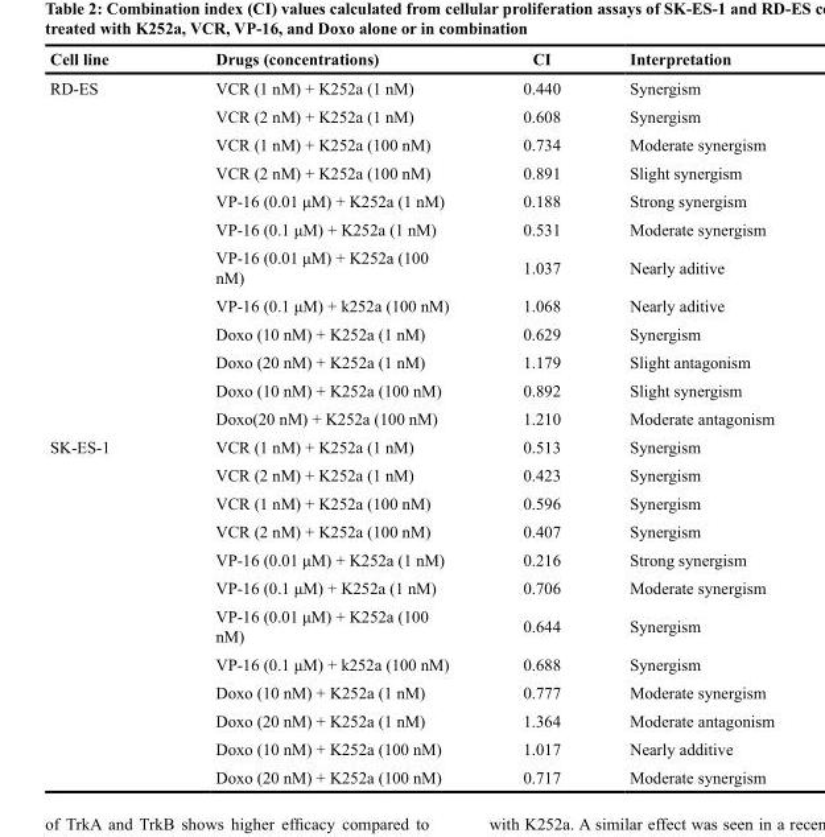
<table><thead><tr><td>Cell line</td><td>Drugs (concentrations)</td><td>CI</td><td>Interpretation</td></tr></thead><tbody><tr><td rowspan="12">RD-ES</td><td>VCR (1 nM) + K252a (1 nM)</td><td>0.440</td><td>Synergism</td></tr><tr><td>VCR (2 nM) + K252a (1 nM)</td><td>0.608</td><td>Synergism</td></tr><tr><td>VCR (1 nM) + K252a (100 nM)</td><td>0.734</td><td>Moderate synergism</td></tr><tr><td>VCR (2 nM) + K252a (100 nM)</td><td>0.891</td><td>Slight synergism</td></tr><tr><td>VP-16 (0.01 μM) + K252a (1 nM)</td><td>0.188</td><td>Strong synergism</td></tr><tr><td>VP-16 (0.1 μM) + K252a (1 nM)</td><td>0.531</td><td>Moderate synergism</td></tr><tr><td>VP-16 (0.01 μM) + K252a (100 nM)</td><td>1.037</td><td>Nearly aditive</td></tr><tr><td>VP-16 (0.1 μM) + k252a (100 nM)</td><td>1.068</td><td>Nearly aditive</td></tr><tr><td>Doxo (10 nM) + K252a (1 nM)</td><td>0.629</td><td>Synergism</td></tr><tr><td>Doxo (20 nM) + K252a (1 nM)</td><td>1.179</td><td>Slight antagonism</td></tr><tr><td>Doxo (10 nM) + K252a (100 nM)</td><td>0.892</td><td>Slight synergism</td></tr><tr><td>Doxo(20 nM) + K252a (100 nM)</td><td>1.210</td><td>Moderate antagonism</td></tr><tr><td rowspan="12">SK-ES-1</td><td>VCR (1 nM) + K252a (1 nM)</td><td>0.513</td><td>Synergism</td></tr><tr><td>VCR (2 nM) + K252a (1 nM)</td><td>0.423</td><td>Synergism</td></tr><tr><td>VCR (1 nM) + K252a (100 nM)</td><td>0.596</td><td>Synergism</td></tr><tr><td>VCR (2 nM) + K252a (100 nM)</td><td>0.407</td><td>Synergism</td></tr><tr><td>VP-16 (0.01 μM) + K252a (1 nM)</td><td>0.216</td><td>Strong synergism</td></tr><tr><td>VP-16 (0.1 μM) + K252a (1 nM)</td><td>0.706</td><td>Moderate synergism</td></tr><tr><td>VP-16 (0.01 μM) + K252a (100 nM)</td><td>0.644</td><td>Synergism</td></tr><tr><td>VP-16 (0.1 μM) + k252a (100 nM)</td><td>0.688</td><td>Synergism</td></tr><tr><td>Doxo (10 nM) + K252a (1 nM)</td><td>0.777</td><td>Moderate synergism</td></tr><tr><td>Doxo (20 nM) + K252a (1 nM)</td><td>1.364</td><td>Moderate antagonism</td></tr><tr><td>Doxo (10 nM) + K252a (100 nM)</td><td>1.017</td><td>Nearly additive</td></tr><tr><td>Doxo (20 nM) + K252a (100 nM)</td><td>0.717</td><td>Moderate synergism</td></tr></tbody></table>